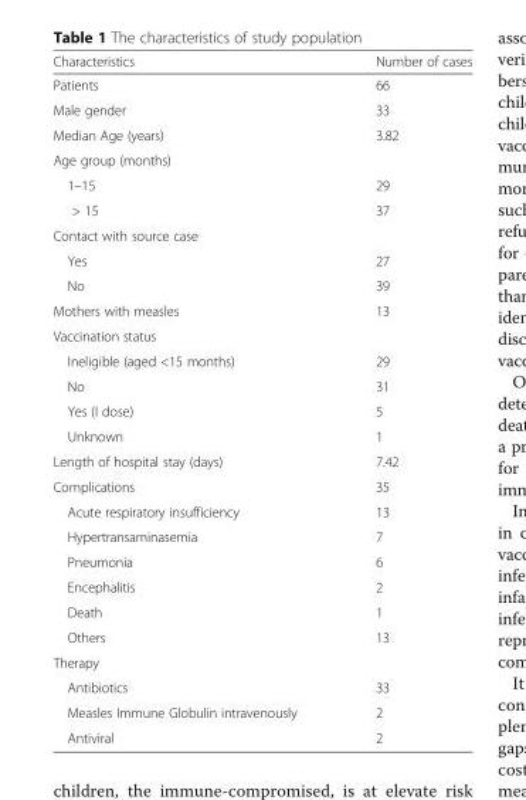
<table><thead><tr><td>Characteristics</td><td>Number of cases</td></tr></thead><tbody><tr><td>Patients</td><td>66</td></tr><tr><td>Male gender</td><td>33</td></tr><tr><td>Median Age (years)</td><td>3.82</td></tr><tr><td colspan="2">Age group (months)</td></tr><tr><td>1–15</td><td>29</td></tr><tr><td>&gt; 15</td><td>37</td></tr><tr><td colspan="2">Contact with source case</td></tr><tr><td>Yes</td><td>27</td></tr><tr><td>No</td><td>39</td></tr><tr><td>Mothers with measles</td><td>13</td></tr><tr><td colspan="2">Vaccination status</td></tr><tr><td>Ineligible (aged &lt;15 months)</td><td>29</td></tr><tr><td>No</td><td>31</td></tr><tr><td>Yes (I dose)</td><td>5</td></tr><tr><td>Unknown</td><td>1</td></tr><tr><td>Length of hospital stay (days)</td><td>7.42</td></tr><tr><td>Complications</td><td>35</td></tr><tr><td>Acute respiratory insufficiency</td><td>13</td></tr><tr><td>Hypertransaminasemia</td><td>7</td></tr><tr><td>Pneumonia</td><td>6</td></tr><tr><td>Encephalitis</td><td>2</td></tr><tr><td>Death</td><td>1</td></tr><tr><td>Others</td><td>13</td></tr><tr><td colspan="2">Therapy</td></tr><tr><td>Antibiotics</td><td>33</td></tr><tr><td>Measles Immune Globulin intravenously</td><td>2</td></tr><tr><td>Antiviral</td><td>2</td></tr></tbody></table>